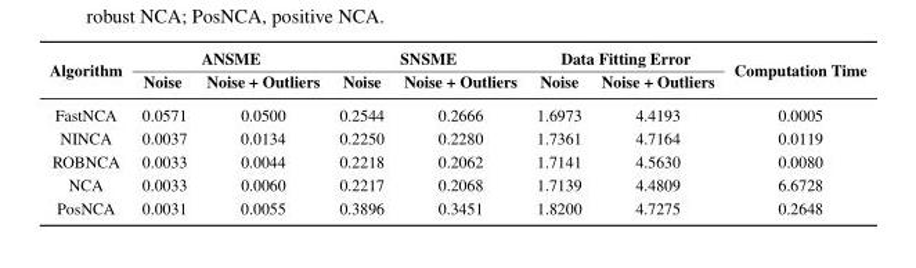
<table><thead><tr><td rowspan="2">Algorithm</td><td colspan="2">ANSME</td><td colspan="2">SNSME</td><td colspan="2">Data Fitting Error</td><td rowspan="2">Computation Time</td></tr><tr><td>Noise</td><td>Noise + Outliers</td><td>Noise</td><td>Noise + Outliers</td><td>Noise</td><td>Noise + Outliers</td></tr></thead><tbody><tr><td>FastNCA</td><td>0.0571</td><td>0.0500</td><td>0.2544</td><td>0.2666</td><td>1.6973</td><td>4.4193</td><td>0.0005</td></tr><tr><td>NINCA</td><td>0.0037</td><td>0.0134</td><td>0.2250</td><td>0.2280</td><td>1.7361</td><td>4.7164</td><td>0.0119</td></tr><tr><td>ROBNCA</td><td>0.0033</td><td>0.0044</td><td>0.2218</td><td>0.2062</td><td>1.7141</td><td>4.5630</td><td>0.0080</td></tr><tr><td>NCA</td><td>0.0033</td><td>0.0060</td><td>0.2217</td><td>0.2068</td><td>1.7139</td><td>4.4809</td><td>6.6728</td></tr><tr><td>PosNCA</td><td>0.0031</td><td>0.0055</td><td>0.3896</td><td>0.3451</td><td>1.8200</td><td>4.7275</td><td>0.2648</td></tr></tbody></table>